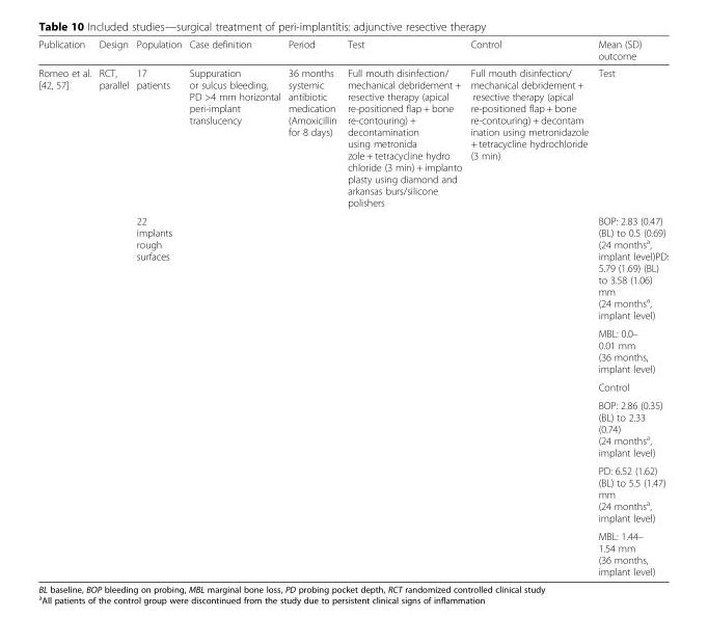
<table><thead><tr><td>Publication</td><td>Design</td><td>Population</td><td>Case definition</td><td>Period</td><td>Test</td><td>Control</td><td>Mean (SD) outcome</td></tr></thead><tbody><tr><td rowspan="7">Romeo et al. [42, 57]</td><td>RCT, parallel</td><td>17 patients</td><td>Suppuration or sulcus bleeding, PD &gt;4 mm horizontal peri-implant translucency</td><td>36 months systemic antibiotic medication (Amoxicillin for 8 days)</td><td>Full mouth disinfection/ mechanical debridement + resective therapy (apical re-positioned flap + bone re-contouring) + decontamination using metronida zole + tetracycline hydro chloride (3 min) + implanto plasty using diamond and arkansas burs/silicone polishers</td><td>Full mouth disinfection/ mechanical debridement + resective therapy (apical re-positioned flap + bone re-contouring) + decontam ination using metronidazole + tetracycline hydrochloride (3 min)</td><td>Test</td></tr><tr><td></td><td>22 implants rough surfaces</td><td></td><td></td><td></td><td></td><td>BOP: 2.83 (0.47) (BL) to 0.5 (0.69) (24 months<sup>a</sup>, implant level)PD: 5.79 (1.69) (BL) to 3.58 (1.06) mm (24 months<sup>a</sup>, implant level)</td></tr><tr><td></td><td></td><td></td><td></td><td></td><td></td><td>MBL: 0.0– 0.01 mm (36 months, implant level)</td></tr><tr><td></td><td></td><td></td><td></td><td></td><td></td><td>Control</td></tr><tr><td></td><td></td><td></td><td></td><td></td><td></td><td>BOP: 2.86 (0.35) (BL) to 2.33 (0.74) (24 months<sup>a</sup>, implant level)</td></tr><tr><td></td><td></td><td></td><td></td><td></td><td></td><td>PD: 6.52 (1.62) (BL) to 5.5 (1.47) mm (24 months<sup>a</sup>, implant level)</td></tr><tr><td></td><td></td><td></td><td></td><td></td><td></td><td>MBL: 1.44– 1.54 mm (36 months, implant level)</td></tr></tbody></table>